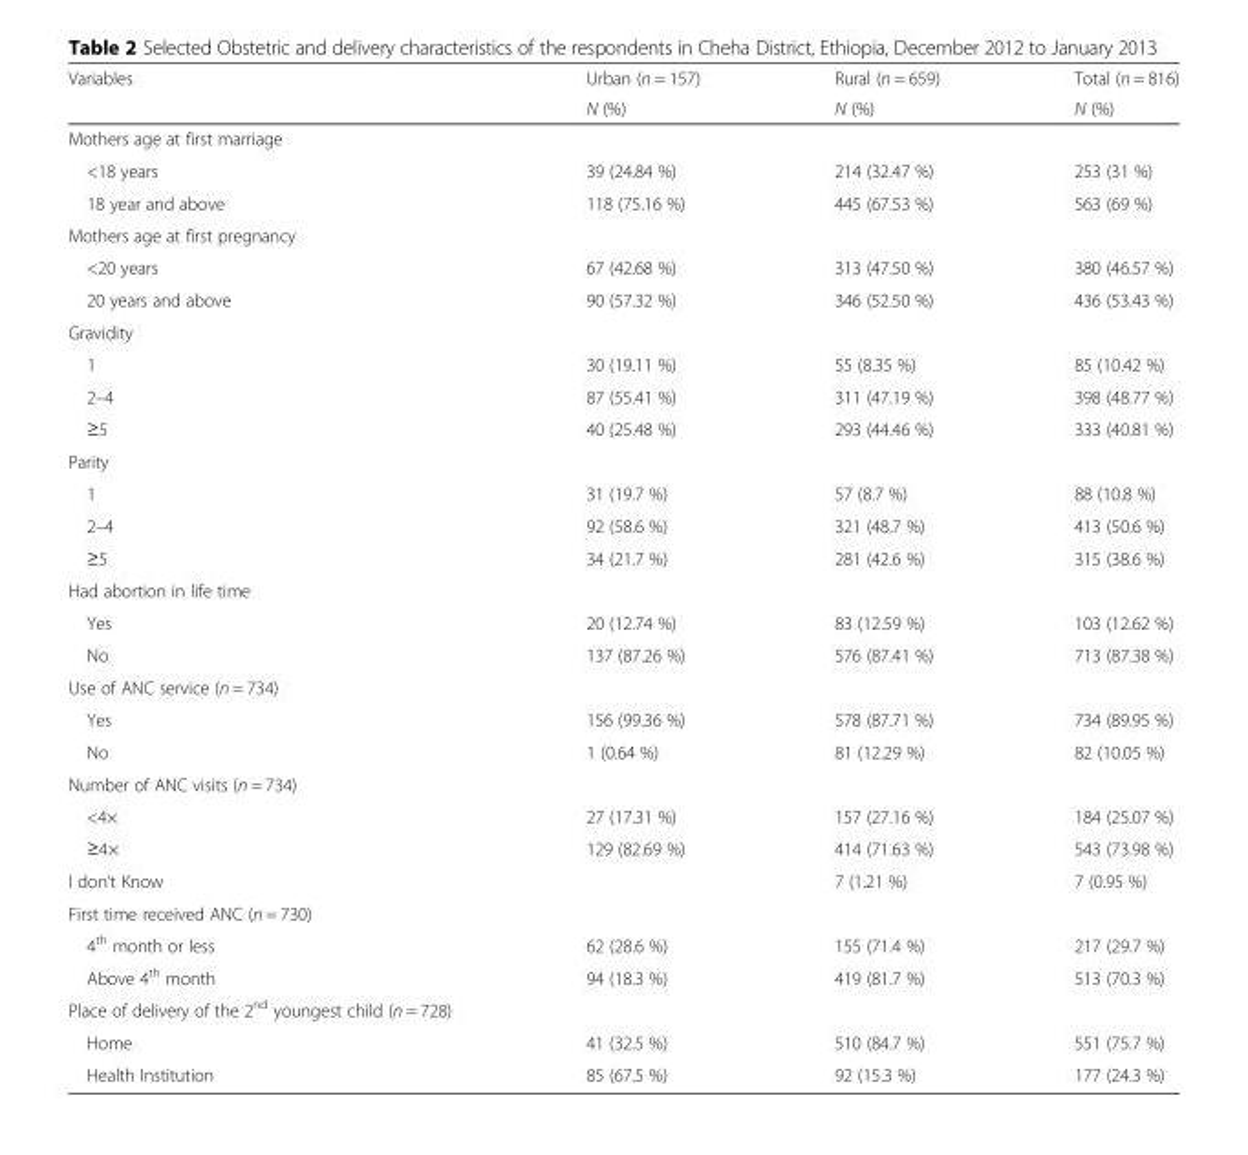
<table><thead><tr><td rowspan="2">Variables</td><td rowspan="2">Urban (n = 157) N (%)</td><td rowspan="2">Rural (n = 659) N (%)</td><td rowspan="2">Total (n = 816) N (%)</td></tr><tr></tr></thead><tbody><tr><td colspan="4">Mothers age at first marriage</td></tr><tr><td>&lt;18 years</td><td>39 (24.84 %)</td><td>214 (32.47 %)</td><td>253 (31 %)</td></tr><tr><td>18 year and above</td><td>118 (75.16 %)</td><td>445 (67.53 %)</td><td>563 (69 %)</td></tr><tr><td colspan="4">Mothers age at first pregnancy</td></tr><tr><td>&lt;20 years</td><td>67 (42.68 %)</td><td>313 (47.50 %)</td><td>380 (46.57 %)</td></tr><tr><td>20 years and above</td><td>90 (57.32 %)</td><td>346 (52.50 %)</td><td>436 (53.43 %)</td></tr><tr><td colspan="4">Gravidity</td></tr><tr><td>1</td><td>30 (19.11 %)</td><td>55 (8.35 %)</td><td>85 (10.42 %)</td></tr><tr><td>2–4</td><td>87 (55.41 %)</td><td>311 (47.19 %)</td><td>398 (48.77 %)</td></tr><tr><td>≥5</td><td>40 (25.48 %)</td><td>293 (44.46 %)</td><td>333 (40.81 %)</td></tr><tr><td colspan="4">Parity</td></tr><tr><td>1</td><td>31 (19.7 %)</td><td>57 (8.7 %)</td><td>88 (10.8 %)</td></tr><tr><td>2–4</td><td>92 (58.6 %)</td><td>321 (48.7 %)</td><td>413 (50.6 %)</td></tr><tr><td>≥5</td><td>34 (21.7 %)</td><td>281 (42.6 %)</td><td>315 (38.6 %)</td></tr><tr><td colspan="4">Had abortion in life time</td></tr><tr><td>Yes</td><td>20 (12.74 %)</td><td>83 (12.59 %)</td><td>103 (12.62 %)</td></tr><tr><td>No</td><td>137 (87.26 %)</td><td>576 (87.41 %)</td><td>713 (87.38 %)</td></tr><tr><td colspan="4">Use of ANC service (n = 734)</td></tr><tr><td>Yes</td><td>156 (99.36 %)</td><td>578 (87.71 %)</td><td>734 (89.95 %)</td></tr><tr><td>No</td><td>1 (0.64 %)</td><td>81 (12.29 %)</td><td>82 (10.05 %)</td></tr><tr><td colspan="4">Number of ANC visits (n = 734)</td></tr><tr><td>&lt;4×</td><td>27 (17.31 %)</td><td>157 (27.16 %)</td><td>184 (25.07 %)</td></tr><tr><td>≥4×</td><td>129 (82.69 %)</td><td>414 (71.63 %)</td><td>543 (73.98 %)</td></tr><tr><td>I don’t Know</td><td></td><td>7 (1.21 %)</td><td>7 (0.95 %)</td></tr><tr><td colspan="4">First time received ANC (n = 730)</td></tr><tr><td>4<sup>th</sup> month or less</td><td>62 (28.6 %)</td><td>155 (71.4 %)</td><td>217 (29.7 %)</td></tr><tr><td>Above 4<sup>th</sup> month</td><td>94 (18.3 %)</td><td>419 (81.7 %)</td><td>513 (70.3 %)</td></tr><tr><td colspan="4">Place of delivery of the 2<sup>nd</sup> youngest child (n = 728)</td></tr><tr><td>Home</td><td>41 (32.5 %)</td><td>510 (84.7 %)</td><td>551 (75.7 %)</td></tr><tr><td>Health Institution</td><td>85 (67.5 %)</td><td>92 (15.3 %)</td><td>177 (24.3 %)</td></tr></tbody></table>